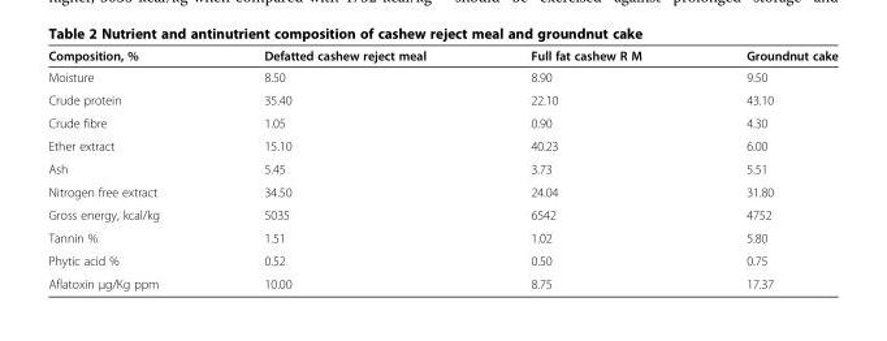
<table><thead><tr><td>Composition, %</td><td>Defatted cashew reject meal</td><td>Full fat cashew R M</td><td>Groundnut cake</td></tr></thead><tbody><tr><td>Moisture</td><td>8.50</td><td>8.90</td><td>9.50</td></tr><tr><td>Crude protein</td><td>35.40</td><td>22.10</td><td>43.10</td></tr><tr><td>Crude fibre</td><td>1.05</td><td>0.90</td><td>4.30</td></tr><tr><td>Ether extract</td><td>15.10</td><td>40.23</td><td>6.00</td></tr><tr><td>Ash</td><td>5.45</td><td>3.73</td><td>5.51</td></tr><tr><td>Nitrogen free extract</td><td>34.50</td><td>24.04</td><td>31.80</td></tr><tr><td>Gross energy, kcal/kg</td><td>5035</td><td>6542</td><td>4752</td></tr><tr><td>Tannin %</td><td>1.51</td><td>1.02</td><td>5.80</td></tr><tr><td>Phytic acid %</td><td>0.52</td><td>0.50</td><td>0.75</td></tr><tr><td>Aflatoxin μg/Kg ppm</td><td>10.00</td><td>8.75</td><td>17.37</td></tr></tbody></table>